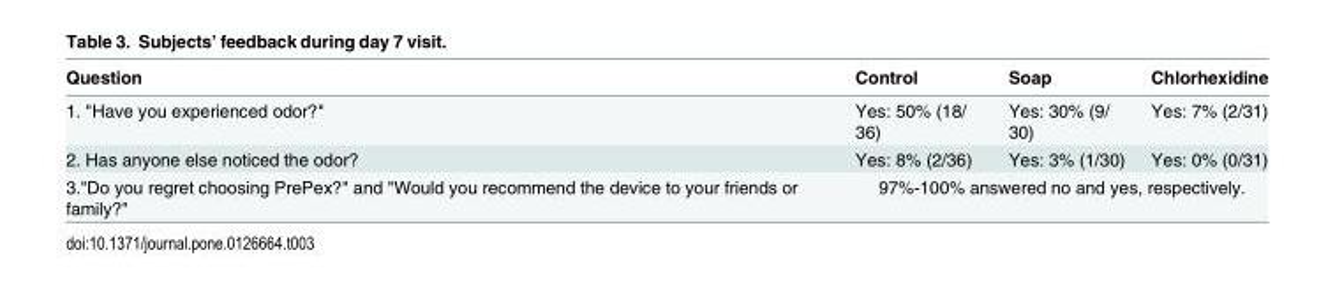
<table><thead><tr><td>Question</td><td>Control</td><td>Soap</td><td>Chlorhexidine</td></tr></thead><tbody><tr><td>1. &quot;Have you experienced odor?&quot;</td><td>Yes: 50% (18/ 36)</td><td>Yes: 30% (9/ 30)</td><td>Yes: 7% (2/31)</td></tr><tr><td>2. Has anyone else noticed the odor?</td><td>Yes: 8% (2/36)</td><td>Yes: 3% (1/30)</td><td>Yes: 0% (0/31)</td></tr><tr><td>3.&quot;Do you regret choosing PrePex?&quot; and &quot;Would you recommend the device to your friends or family?&quot;</td><td colspan="3">97%-100% answered no and yes, respectively.</td></tr></tbody></table>